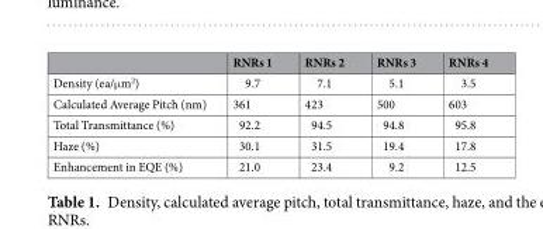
<table><thead><tr><td></td><td>RNRs 1</td><td>RNRs 2</td><td>RNRs 3</td><td>RNRs 4</td></tr></thead><tbody><tr><td>Density (ea/μm<sup>2</sup>)</td><td>9.7</td><td>7.1</td><td>5.1</td><td>3.5</td></tr><tr><td>Calculated Average Pitch (nm)</td><td>361</td><td>423</td><td>500</td><td>603</td></tr><tr><td>Total Transmittance (%)</td><td>92.2</td><td>94.5</td><td>94.8</td><td>95.8</td></tr><tr><td>Haze (%)</td><td>30.1</td><td>31.5</td><td>19.4</td><td>17.8</td></tr><tr><td>Enhancement in EQE (%)</td><td>21.0</td><td>23.4</td><td>9.2</td><td>12.5</td></tr></tbody></table>